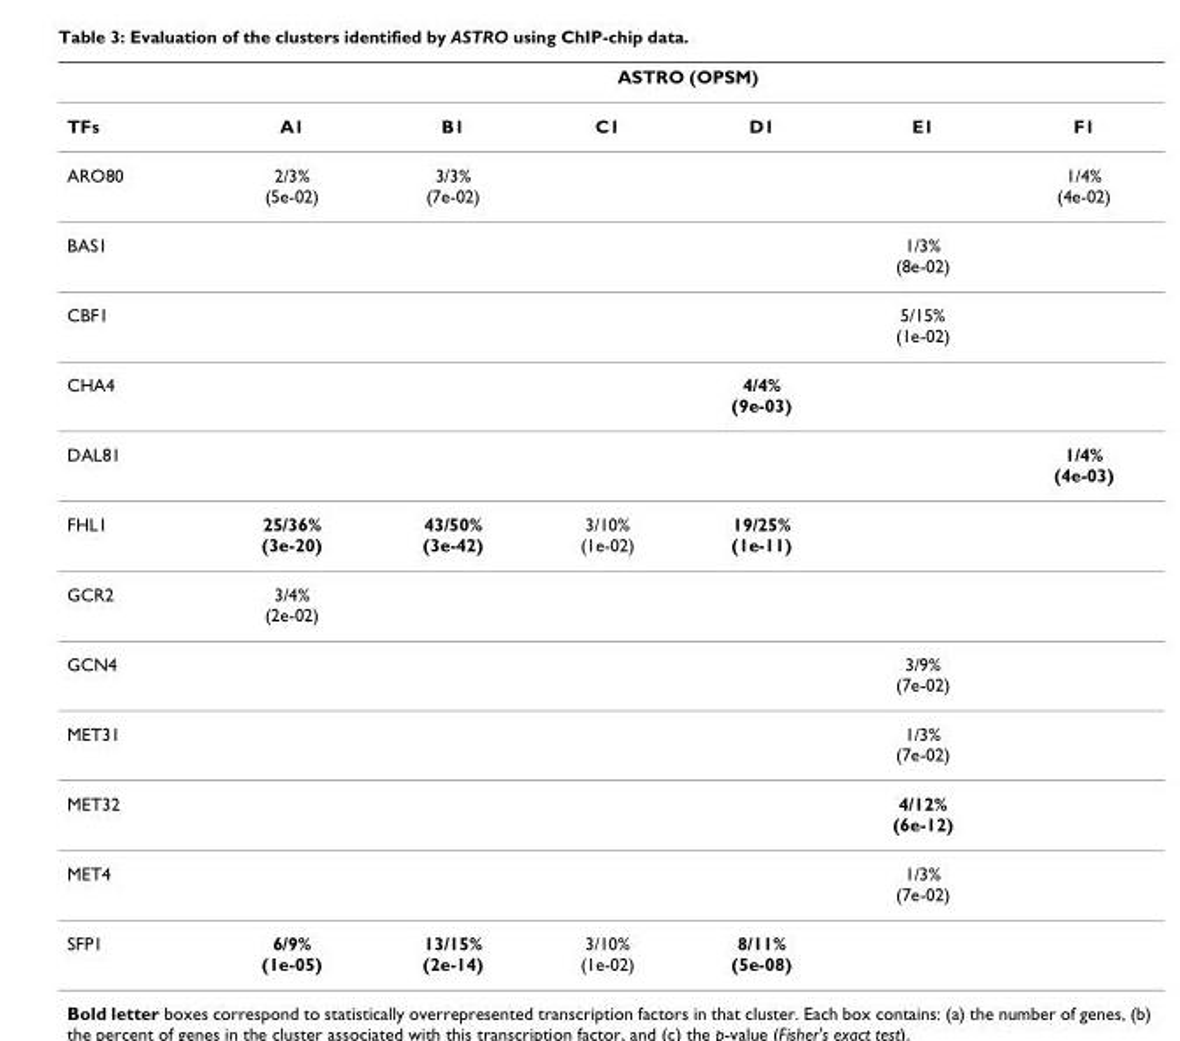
<table><thead><tr><td rowspan="2">TFs</td><td colspan="6">ASTRO (OPSM)</td></tr><tr><td>A1</td><td>B1</td><td>C1</td><td>D1</td><td>E1</td><td>F1</td></tr></thead><tbody><tr><td>ARO80</td><td>2/3% (5e-02)</td><td>3/3% (7e-02)</td><td></td><td></td><td></td><td>1/4% (4e-02)</td></tr><tr><td>BAS1</td><td></td><td></td><td></td><td></td><td>1/3% (8e-02)</td><td></td></tr><tr><td>CBF1</td><td></td><td></td><td></td><td></td><td>5/15% (1e-02)</td><td></td></tr><tr><td>CHA4</td><td></td><td></td><td></td><td>4/4% (9e-03)</td><td></td><td></td></tr><tr><td>DAL81</td><td></td><td></td><td></td><td></td><td></td><td>1/4% (4e-03)</td></tr><tr><td>FHL1</td><td>25/36% (3e-20)</td><td>43/50% (3e-42)</td><td>3/10% (1e-02)</td><td>19/25% (1e-11)</td><td></td><td></td></tr><tr><td>GCR2</td><td>3/4% (2e-02)</td><td></td><td></td><td></td><td></td><td></td></tr><tr><td>GCN4</td><td></td><td></td><td></td><td></td><td>3/9% (7e-02)</td><td></td></tr><tr><td>MET31</td><td></td><td></td><td></td><td></td><td>1/3% (7e-02)</td><td></td></tr><tr><td>MET32</td><td></td><td></td><td></td><td></td><td>4/12% (6e-12)</td><td></td></tr><tr><td>MET4</td><td></td><td></td><td></td><td></td><td>1/3% (7e-02)</td><td></td></tr><tr><td>SFP1</td><td>6/9% (1e-05)</td><td>13/15% (2e-14)</td><td>3/10% (1e-02)</td><td>8/11% (5e-08)</td><td></td><td></td></tr></tbody></table>